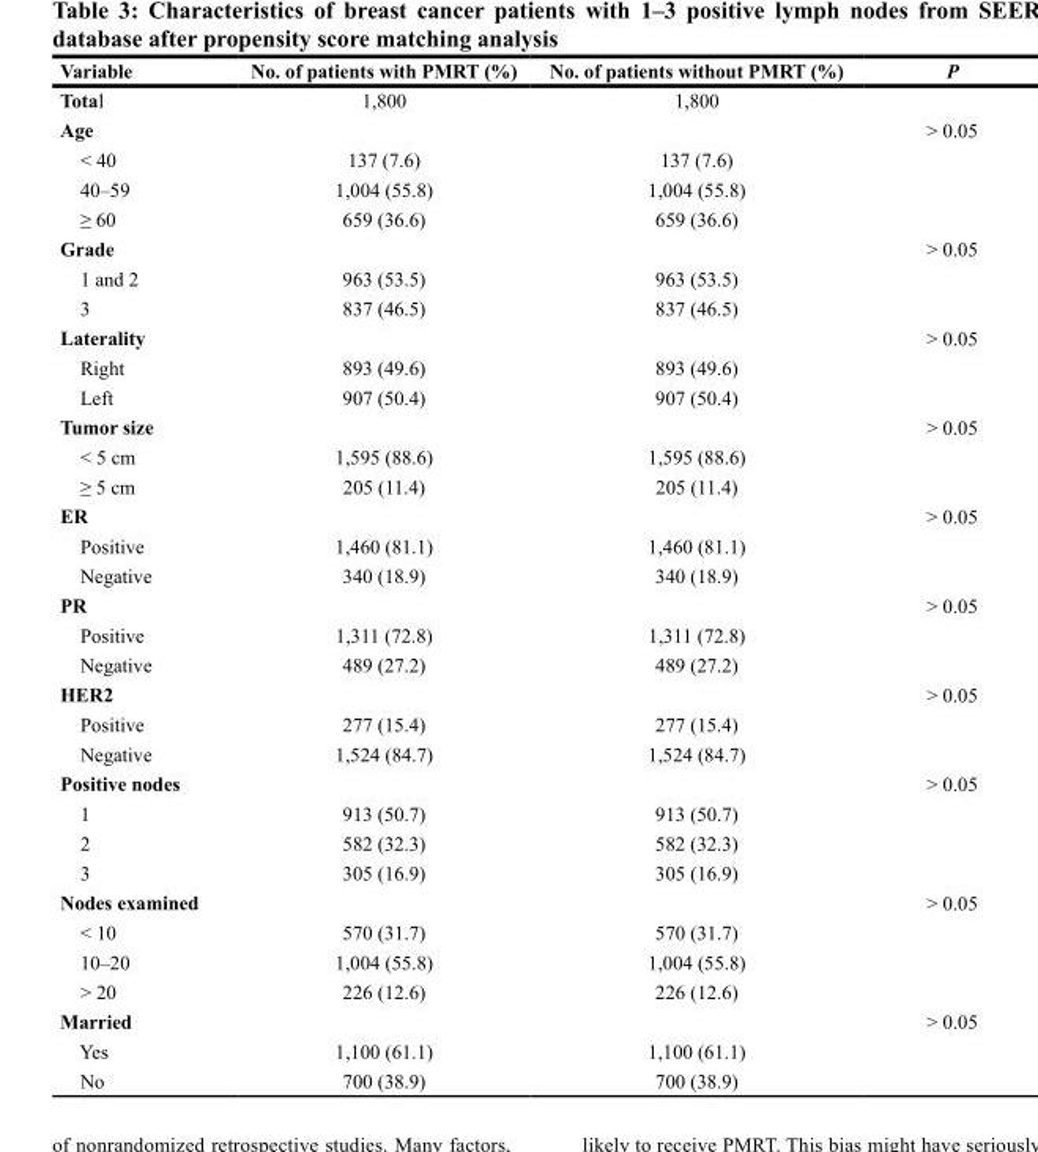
<table><thead><tr><td>Variable</td><td>No. of patients with PMRT (%)</td><td>No. of patients without PMRT (%)</td><td>P</td></tr></thead><tbody><tr><td>Total</td><td>1,800</td><td>1,800</td><td></td></tr><tr><td>Age</td><td></td><td></td><td>&gt; 0.05</td></tr><tr><td>&lt; 40</td><td>137 (7.6)</td><td>137 (7.6)</td><td></td></tr><tr><td>40–59</td><td>1,004 (55.8)</td><td>1,004 (55.8)</td><td></td></tr><tr><td>≥ 60</td><td>659 (36.6)</td><td>659 (36.6)</td><td></td></tr><tr><td>Grade</td><td></td><td></td><td>&gt; 0.05</td></tr><tr><td>1 and 2</td><td>963 (53.5)</td><td>963 (53.5)</td><td></td></tr><tr><td>3</td><td>837 (46.5)</td><td>837 (46.5)</td><td></td></tr><tr><td>Laterality</td><td></td><td></td><td>&gt; 0.05</td></tr><tr><td>Right</td><td>893 (49.6)</td><td>893 (49.6)</td><td></td></tr><tr><td>Left</td><td>907 (50.4)</td><td>907 (50.4)</td><td></td></tr><tr><td>Tumor size</td><td></td><td></td><td>&gt; 0.05</td></tr><tr><td>&lt; 5 cm</td><td>1,595 (88.6)</td><td>1,595 (88.6)</td><td></td></tr><tr><td>≥ 5 cm</td><td>205 (11.4)</td><td>205 (11.4)</td><td></td></tr><tr><td>ER</td><td></td><td></td><td>&gt; 0.05</td></tr><tr><td>Positive</td><td>1,460 (81.1)</td><td>1,460 (81.1)</td><td></td></tr><tr><td>Negative</td><td>340 (18.9)</td><td>340 (18.9)</td><td></td></tr><tr><td>PR</td><td></td><td></td><td>&gt; 0.05</td></tr><tr><td>Positive</td><td>1,311 (72.8)</td><td>1,311 (72.8)</td><td></td></tr><tr><td>Negative</td><td>489 (27.2)</td><td>489 (27.2)</td><td></td></tr><tr><td>HER2</td><td></td><td></td><td>&gt; 0.05</td></tr><tr><td>Positive</td><td>277 (15.4)</td><td>277 (15.4)</td><td></td></tr><tr><td>Negative</td><td>1,524 (84.7)</td><td>1,524 (84.7)</td><td></td></tr><tr><td>Positive nodes</td><td></td><td></td><td>&gt; 0.05</td></tr><tr><td>1</td><td>913 (50.7)</td><td>913 (50.7)</td><td></td></tr><tr><td>2</td><td>582 (32.3)</td><td>582 (32.3)</td><td></td></tr><tr><td>3</td><td>305 (16.9)</td><td>305 (16.9)</td><td></td></tr><tr><td>Nodes examined</td><td></td><td></td><td>&gt; 0.05</td></tr><tr><td>&lt; 10</td><td>570 (31.7)</td><td>570 (31.7)</td><td></td></tr><tr><td>10–20</td><td>1,004 (55.8)</td><td>1,004 (55.8)</td><td></td></tr><tr><td>&gt; 20</td><td>226 (12.6)</td><td>226 (12.6)</td><td></td></tr><tr><td>Married</td><td></td><td></td><td>&gt; 0.05</td></tr><tr><td>Yes</td><td>1,100 (61.1)</td><td>1,100 (61.1)</td><td></td></tr><tr><td>No</td><td>700 (38.9)</td><td>700 (38.9)</td><td></td></tr></tbody></table>